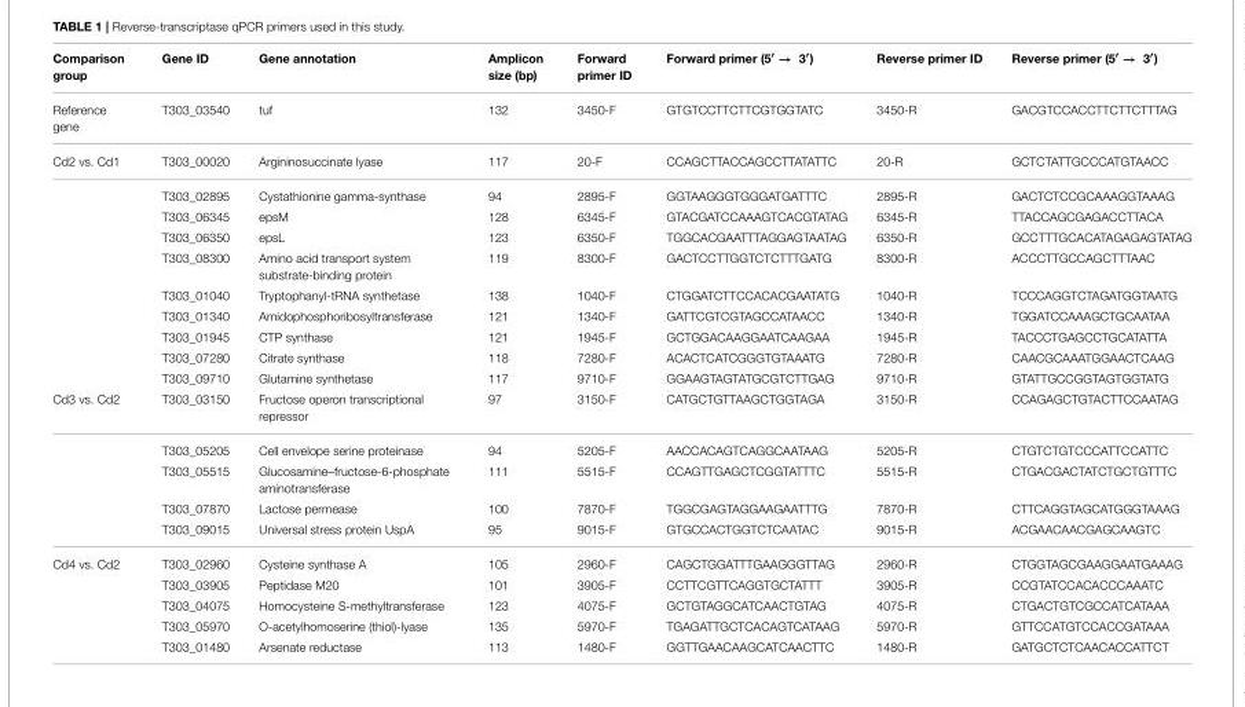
<table><thead><tr><td>Comparison group</td><td>Gene ID</td><td>Gene annotation</td><td>Amplicon size (bp)</td><td>Forward primer ID</td><td>Forward primer (5′ → 3′)</td><td>Reverse primer ID</td><td>Reverse primer (5′ → 3′)</td></tr></thead><tbody><tr><td>Reference gene</td><td>T303_03540</td><td>tuf</td><td>132</td><td>3450-F</td><td>GTGTCCTTCTTCGTGGTATC</td><td>3450-R</td><td>GACGTCCACCTTCTTCTTTAG</td></tr><tr><td rowspan="10">Cd2 vs. Cd1</td><td>T303_00020</td><td>Argininosuccinate lyase</td><td>117</td><td>20-F</td><td>CCAGCTTACCAGCCTTATATTC</td><td>20-R</td><td>GCTCTATTGCCCATGTAACC</td></tr><tr><td>T303_02895</td><td>Cystathionine gamma-synthase</td><td>94</td><td>2895-F</td><td>GGTAAGGGTGGGATGATTTC</td><td>2895-R</td><td>GACTCTCCGCAAAGGTAAAG</td></tr><tr><td>T303_06345</td><td>epsM</td><td>128</td><td>6345-F</td><td>GTACGATCCAAAGTCACGTATAG</td><td>6345-R</td><td>TTACCAGCGAGACCTTACA</td></tr><tr><td>T303_06350</td><td>epsL</td><td>123</td><td>6350-F</td><td>TGGCACGAATTTAGGAGTAATAG</td><td>6350-R</td><td>GCCTTTGCACATAGAGAGTATAG</td></tr><tr><td>T303_08300</td><td>Amino acid transport system substrate-binding protein</td><td>119</td><td>8300-F</td><td>GACTCCTTGGTCTCTTTGATG</td><td>8300-R</td><td>ACCCTTGCCAGCTTTAAC</td></tr><tr><td>T303_01040</td><td>Tryptophanyl-tRNA synthetase</td><td>138</td><td>1040-F</td><td>CTGGATCTTCCACACGAATATG</td><td>1040-R</td><td>TCCCAGGTCTAGATGGTAATG</td></tr><tr><td>T303_01340</td><td>Amidophosphoribosyltransferase</td><td>121</td><td>1340-F</td><td>GATTCGTCGTAGCCATAACC</td><td>1340-R</td><td>TGGATCCAAAGCTGCAATAA</td></tr><tr><td>T303_01945</td><td>CTP synthase</td><td>121</td><td>1945-F</td><td>GCTGGACAAGGAATCAAGAA</td><td>1945-R</td><td>TACCCTGAGCCTGCATATTA</td></tr><tr><td>T303_07280</td><td>Citrate synthase</td><td>118</td><td>7280-F</td><td>ACACTCATCGGGTGTAAATG</td><td>7280-R</td><td>CAACGCAAATGGAACTCAAG</td></tr><tr><td>T303_09710</td><td>Glutamine synthetase</td><td>117</td><td>9710-F</td><td>GGAAGTAGTATGCGTCTTGAG</td><td>9710-R</td><td>GTATTGCCGGTAGTGGTATG</td></tr><tr><td rowspan="5">Cd3 vs. Cd2</td><td>T303_03150</td><td>Fructose operon transcriptional repressor</td><td>97</td><td>3150-F</td><td>CATGCTGTTAAGCTGGTAGA</td><td>3150-R</td><td>CCAGAGCTGTACTTCCAATAG</td></tr><tr><td>T303_05205</td><td>Cell envelope serine proteinase</td><td>94</td><td>5205-F</td><td>AACCACAGTCAGGCAATAAG</td><td>5205-R</td><td>CTGTCTGTCCCATTCCATTC</td></tr><tr><td>T303_05515</td><td>Glucosamine–fructose-6-phosphate aminotransferase</td><td>111</td><td>5515-F</td><td>CCAGTTGAGCTCGGTATTTC</td><td>5515-R</td><td>CTGACGACTATCTGCTGTTTC</td></tr><tr><td>T303_07870</td><td>Lactose permease</td><td>100</td><td>7870-F</td><td>TGGCGAGTAGGAAGAATTTG</td><td>7870-R</td><td>CTTCAGGTAGCATGGGTAAAG</td></tr><tr><td>T303_09015</td><td>Universal stress protein UspA</td><td>95</td><td>9015-F</td><td>GTGCCACTGGTCTCAATAC</td><td>9015-R</td><td>ACGAACAACGAGCAAGTC</td></tr><tr><td rowspan="5">Cd4 vs. Cd2</td><td>T303_02960</td><td>Cysteine synthase A</td><td>105</td><td>2960-F</td><td>CAGCTGGATTTGAAGGGTTAG</td><td>2960-R</td><td>CTGGTAGCGAAGGAATGAAAG</td></tr><tr><td>T303_03905</td><td>Peptidase M20</td><td>101</td><td>3905-F</td><td>CCTTCGTTCAGGTGCTATTT</td><td>3905-R</td><td>CCGTATCCACACCCAAATC</td></tr><tr><td>T303_04075</td><td>Homocysteine S-methyltransferase</td><td>123</td><td>4075-F</td><td>GCTGTAGGCATCAACTGTAG</td><td>4075-R</td><td>CTGACTGTCGCCATCATAAA</td></tr><tr><td>T303_05970</td><td>O-acetylhomoserine (thiol)-lyase</td><td>135</td><td>5970-F</td><td>TGAGATTGCTCACAGTCATAAG</td><td>5970-R</td><td>GTTCCATGTCCACCGATAAA</td></tr><tr><td>T303_01480</td><td>Arsenate reductase</td><td>113</td><td>1480-F</td><td>GGTTGAACAAGCATCAACTTC</td><td>1480-R</td><td>GATGCTCTCAACACCATTCT</td></tr></tbody></table>